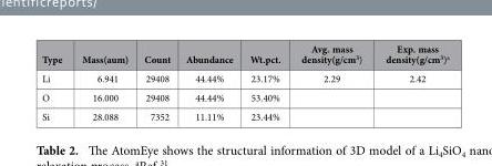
<table><thead><tr><td>Type</td><td>Mass(aum)</td><td>Count</td><td>Abundance</td><td>Wt.pct.</td><td>Avg. mass density(g/cm<sup>3</sup>)</td><td>Exp. mass density(g/cm<sup>3</sup>)<sup>a</sup></td></tr></thead><tbody><tr><td>Li</td><td>6.941</td><td>29408</td><td>44.44%</td><td>23.17%</td><td>2.29</td><td>2.42</td></tr><tr><td>O</td><td>16.000</td><td>29408</td><td>44.44%</td><td>53.40%</td><td></td><td></td></tr><tr><td>Si</td><td>28.088</td><td>7352</td><td>11.11%</td><td>23.44%</td><td></td><td></td></tr></tbody></table>